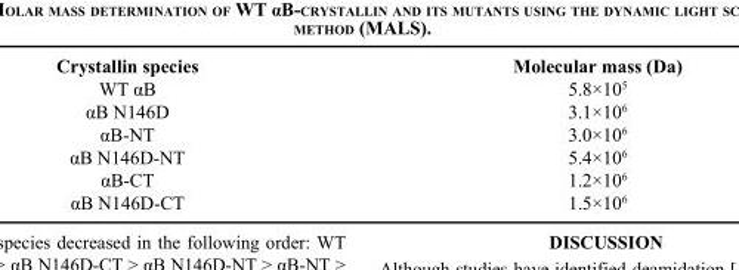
<table><thead><tr><td>Crystallin species</td><td>Molecular mass (Da)</td></tr></thead><tbody><tr><td>WT αB</td><td>5.8×10<sup>5</sup></td></tr><tr><td>αB N146D</td><td>3.1×10<sup>6</sup></td></tr><tr><td>αB-NT</td><td>3.0×10<sup>6</sup></td></tr><tr><td>αB N146D-NT</td><td>5.4×10<sup>6</sup></td></tr><tr><td>αB-CT</td><td>1.2×10<sup>6</sup></td></tr><tr><td>αB N146D-CT</td><td>1.5×10<sup>6</sup></td></tr></tbody></table>